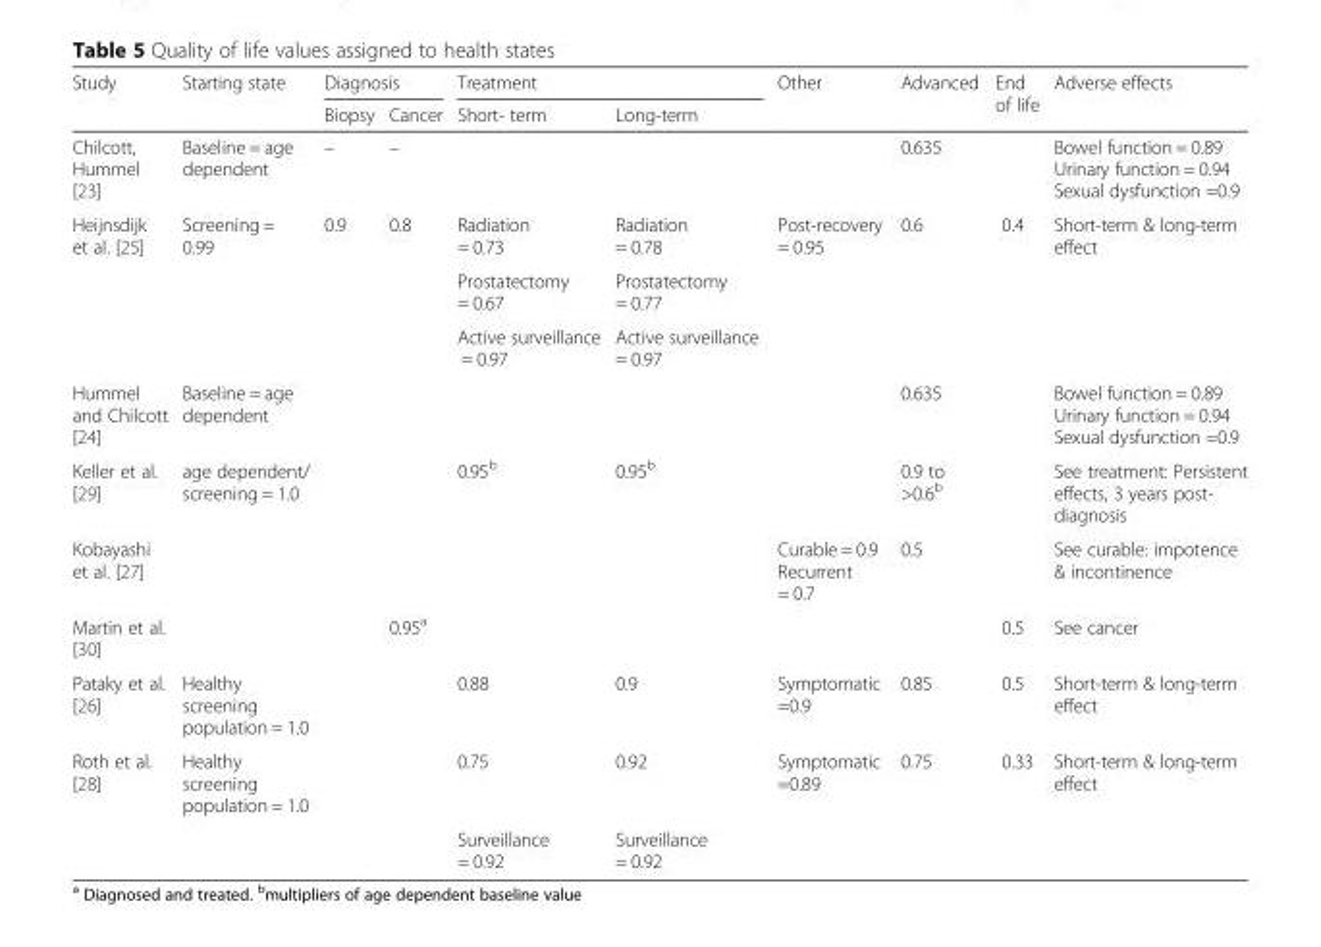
<table><thead><tr><td rowspan="2">Study</td><td rowspan="2">Starting state</td><td colspan="2">Diagnosis</td><td colspan="2">Treatment</td><td rowspan="2">Other</td><td rowspan="2">Advanced</td><td rowspan="2">End of life</td><td rowspan="2">Adverse effects</td></tr><tr><td>Biopsy</td><td>Cancer</td><td>Short- term</td><td>Long-term</td></tr></thead><tbody><tr><td>Chilcott, Hummel [23]</td><td>Baseline = age dependent</td><td>–</td><td>–</td><td></td><td></td><td></td><td>0.635</td><td></td><td>Bowel function = 0.89 Urinary function = 0.94 Sexual dysfunction =0.9</td></tr><tr><td rowspan="3">Heijnsdijk et al. [25]</td><td>Screening = 0.99</td><td>0.9</td><td>0.8</td><td>Radiation = 0.73</td><td>Radiation = 0.78</td><td>Post-recovery = 0.95</td><td>0.6</td><td>0.4</td><td rowspan="3">Short-term &amp; long-term effect</td></tr><tr><td></td><td></td><td></td><td>Prostatectomy = 0.67</td><td>Prostatectomy = 0.77</td><td></td><td></td><td></td></tr><tr><td></td><td></td><td></td><td>Active surveillance = 0.97</td><td>Active surveillance = 0.97</td><td></td><td></td><td></td></tr><tr><td>Hummel and Chilcott [24]</td><td>Baseline = age dependent</td><td></td><td></td><td></td><td></td><td></td><td>0.635</td><td></td><td>Bowel function = 0.89 Urinary function = 0.94 Sexual dysfunction =0.9</td></tr><tr><td>Keller et al. [29]</td><td>age dependent/ screening = 1.0</td><td></td><td></td><td>0.95<sup>b</sup></td><td>0.95<sup>b</sup></td><td></td><td>0.9 to &gt;0.6<sup>b</sup></td><td></td><td>See treatment: Persistent effects, 3 years post- diagnosis</td></tr><tr><td>Kobayashi et al. [27]</td><td></td><td></td><td></td><td></td><td></td><td>Curable = 0.9 Recurrent = 0.7</td><td>0.5</td><td></td><td>See curable: impotence &amp; incontinence</td></tr><tr><td>Martin et al. [30]</td><td></td><td></td><td>0.95<sup>a</sup></td><td></td><td></td><td></td><td></td><td>0.5</td><td>See cancer</td></tr><tr><td>Pataky et al. [26]</td><td>Healthy screening population = 1.0</td><td></td><td></td><td>0.88</td><td>0.9</td><td>Symptomatic =0.9</td><td>0.85</td><td>0.5</td><td>Short-term &amp; long-term effect</td></tr><tr><td rowspan="2">Roth et al. [28]</td><td>Healthy screening population = 1.0</td><td></td><td></td><td>0.75</td><td>0.92</td><td>Symptomatic =0.89</td><td>0.75</td><td>0.33</td><td rowspan="2">Short-term &amp; long-term effect</td></tr><tr><td></td><td></td><td></td><td>Surveillance = 0.92</td><td>Surveillance = 0.92</td><td></td><td></td><td></td></tr></tbody></table>